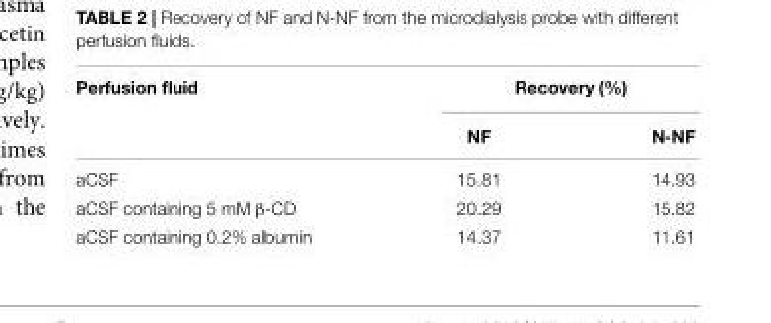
<table><thead><tr><td rowspan="2">Perfusion fluid</td><td colspan="2">Recovery (%)</td></tr><tr><td>NF</td><td>N-NF</td></tr></thead><tbody><tr><td>aCSF</td><td>15.81</td><td>14.93</td></tr><tr><td>aCSF containing 5 mM β-CD</td><td>20.29</td><td>15.82</td></tr><tr><td>aCSF containing 0.2% albumin</td><td>14.37</td><td>11.61</td></tr></tbody></table>